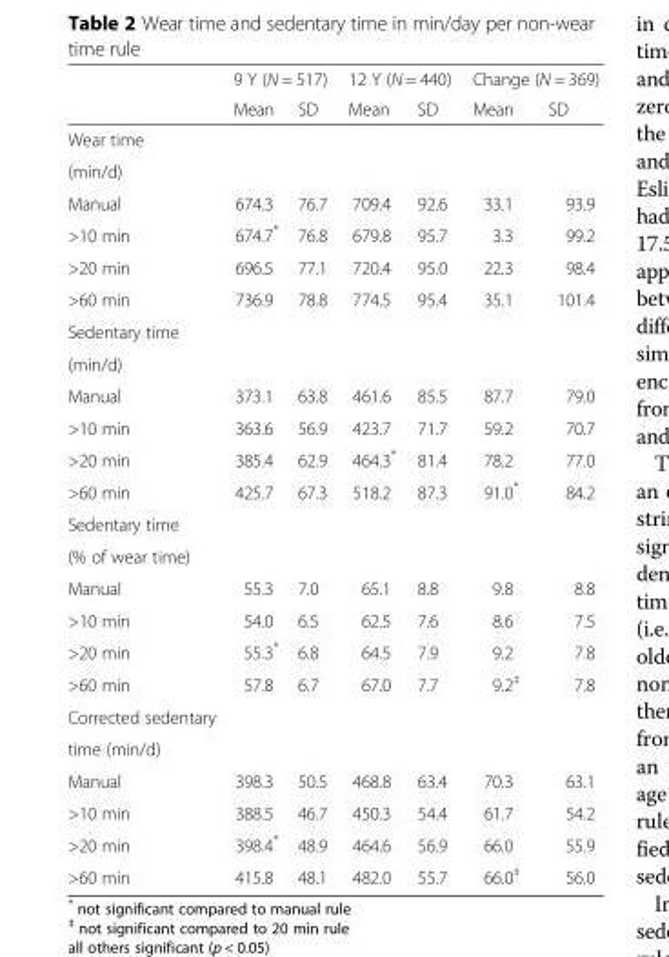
<table><thead><tr><td rowspan="2"></td><td colspan="2">9 Y (N = 517)</td><td colspan="2">12 Y (N = 440)</td><td colspan="2">Change (N = 369)</td></tr><tr><td>Mean</td><td>SD</td><td>Mean</td><td>SD</td><td>Mean</td><td>SD</td></tr></thead><tbody><tr><td>Wear time</td><td rowspan="2"></td><td rowspan="2"></td><td rowspan="2"></td><td rowspan="2"></td><td rowspan="2"></td><td rowspan="2"></td></tr><tr><td>(min/d)</td></tr><tr><td>Manual</td><td>674.3</td><td>76.7</td><td>709.4</td><td>92.6</td><td>33.1</td><td>93.9</td></tr><tr><td>&gt;10 min</td><td>674.7*</td><td>76.8</td><td>679.8</td><td>95.7</td><td>3.3</td><td>99.2</td></tr><tr><td>&gt;20 min</td><td>696.5</td><td>77.1</td><td>720.4</td><td>95.0</td><td>22.3</td><td>98.4</td></tr><tr><td>&gt;60 min</td><td>736.9</td><td>78.8</td><td>774.5</td><td>95.4</td><td>35.1</td><td>101.4</td></tr><tr><td>Sedentary time</td><td rowspan="2"></td><td rowspan="2"></td><td rowspan="2"></td><td rowspan="2"></td><td rowspan="2"></td><td rowspan="2"></td></tr><tr><td>(min/d)</td></tr><tr><td>Manual</td><td>373.1</td><td>63.8</td><td>461.6</td><td>85.5</td><td>87.7</td><td>79.0</td></tr><tr><td>&gt;10 min</td><td>363.6</td><td>56.9</td><td>423.7</td><td>71.7</td><td>59.2</td><td>70.7</td></tr><tr><td>&gt;20 min</td><td>385.4</td><td>62.9</td><td>464.3*</td><td>81.4</td><td>78.2</td><td>77.0</td></tr><tr><td>&gt;60 min</td><td>425.7</td><td>67.3</td><td>518.2</td><td>87.3</td><td>91.0*</td><td>84.2</td></tr><tr><td>Sedentary time</td><td rowspan="2"></td><td rowspan="2"></td><td rowspan="2"></td><td rowspan="2"></td><td rowspan="2"></td><td rowspan="2"></td></tr><tr><td>(% of wear time)</td></tr><tr><td>Manual</td><td>55.3</td><td>7.0</td><td>65.1</td><td>8.8</td><td>9.8</td><td>8.8</td></tr><tr><td>&gt;10 min</td><td>54.0</td><td>6.5</td><td>62.5</td><td>7.6</td><td>8.6</td><td>7.5</td></tr><tr><td>&gt;20 min</td><td>55.3*</td><td>6.8</td><td>64.5</td><td>7.9</td><td>9.2</td><td>7.8</td></tr><tr><td>&gt;60 min</td><td>57.8</td><td>6.7</td><td>67.0</td><td>7.7</td><td>9.2<sup>‡</sup></td><td>7.8</td></tr><tr><td>Corrected sedentary</td><td rowspan="2"></td><td rowspan="2"></td><td rowspan="2"></td><td rowspan="2"></td><td rowspan="2"></td><td rowspan="2"></td></tr><tr><td>time (min/d)</td></tr><tr><td>Manual</td><td>398.3</td><td>50.5</td><td>468.8</td><td>63.4</td><td>70.3</td><td>63.1</td></tr><tr><td>&gt;10 min</td><td>388.5</td><td>46.7</td><td>450.3</td><td>54.4</td><td>61.7</td><td>54.2</td></tr><tr><td>&gt;20 min</td><td>398.4*</td><td>48.9</td><td>464.6</td><td>56.9</td><td>66.0</td><td>55.9</td></tr><tr><td>&gt;60 min</td><td>415.8</td><td>48.1</td><td>482.0</td><td>55.7</td><td>66.0<sup>‡</sup></td><td>56.0</td></tr></tbody></table>